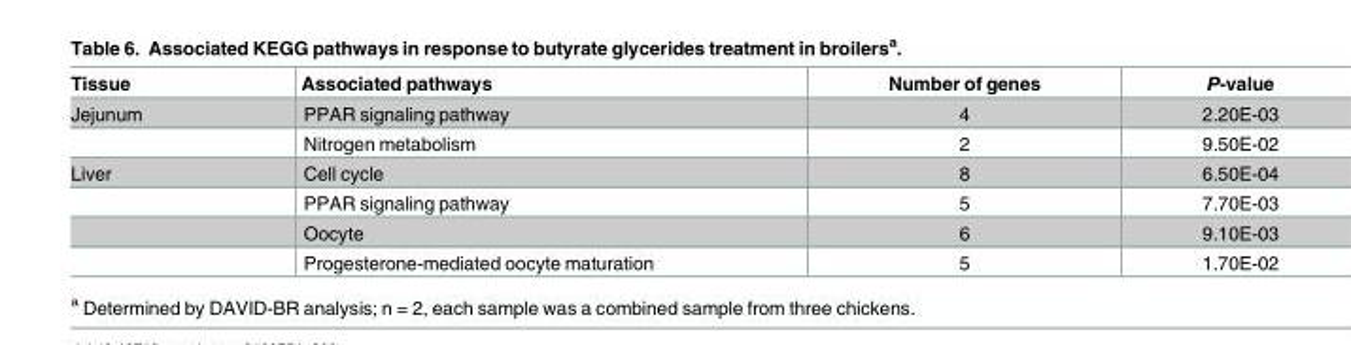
<table><thead><tr><td>Tissue</td><td>Associated pathways</td><td>Number of genes</td><td>P-value</td></tr></thead><tbody><tr><td rowspan="2">Jejunum</td><td>PPAR signaling pathway</td><td>4</td><td>2.20E-03</td></tr><tr><td>Nitrogen metabolism</td><td>2</td><td>9.50E-02</td></tr><tr><td rowspan="4">Liver</td><td>Cell cycle</td><td>8</td><td>6.50E-04</td></tr><tr><td>PPAR signaling pathway</td><td>5</td><td>7.70E-03</td></tr><tr><td>Oocyte</td><td>6</td><td>9.10E-03</td></tr><tr><td>Progesterone-mediated oocyte maturation</td><td>5</td><td>1.70E-02</td></tr></tbody></table>